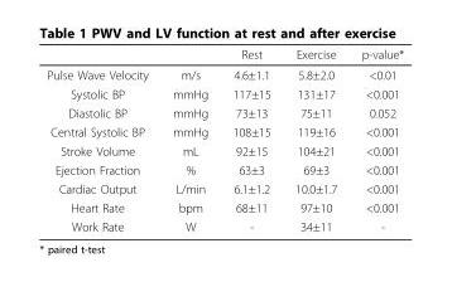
<table><thead><tr><td></td><td></td><td>Rest</td><td>Exercise</td><td>p-value*</td></tr></thead><tbody><tr><td>Pulse Wave Velocity</td><td>m/s</td><td>4.6±1.1</td><td>5.8±2.0</td><td>&lt;0.01</td></tr><tr><td>Systolic BP</td><td>mmHg</td><td>117±15</td><td>131±17</td><td>&lt;0.001</td></tr><tr><td>Diastolic BP</td><td>mmHg</td><td>73±13</td><td>75±11</td><td>0.052</td></tr><tr><td>Central Systolic BP</td><td>mmHg</td><td>108±15</td><td>119±16</td><td>&lt;0.001</td></tr><tr><td>Stroke Volume</td><td>mL</td><td>92±15</td><td>104±21</td><td>&lt;0.001</td></tr><tr><td>Ejection Fraction</td><td>%</td><td>63±3</td><td>69±3</td><td>&lt;0.001</td></tr><tr><td>Cardiac Output</td><td>L/min</td><td>6.1±1.2</td><td>10.0±1.7</td><td>&lt;0.001</td></tr><tr><td>Heart Rate</td><td>bpm</td><td>68±11</td><td>97±10</td><td>&lt;0.001</td></tr><tr><td>Work Rate</td><td>W</td><td>-</td><td>34±11</td><td>-</td></tr></tbody></table>